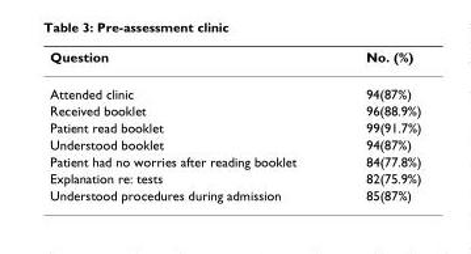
<table><thead><tr><td>Question</td><td>No. (%)</td></tr></thead><tbody><tr><td>Attended clinic</td><td>94(87%)</td></tr><tr><td>Received booklet</td><td>96(88.9%)</td></tr><tr><td>Patient read booklet</td><td>99(91.7%)</td></tr><tr><td>Understood booklet</td><td>94(87%)</td></tr><tr><td>Patient had no worries after reading booklet</td><td>84(77.8%)</td></tr><tr><td>Explanation re: tests</td><td>82(75.9%)</td></tr><tr><td>Understood procedures during admission</td><td>85(87%)</td></tr></tbody></table>